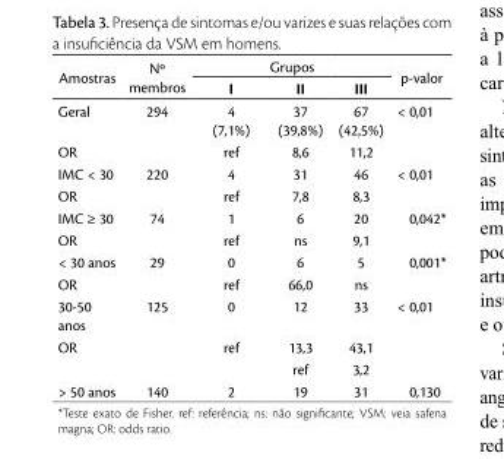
<table><thead><tr><td rowspan="2">Amostras</td><td rowspan="2">Nº membros</td><td colspan="3">Grupos</td><td rowspan="2">p-valor</td></tr><tr><td>I</td><td>II</td><td>III</td></tr></thead><tbody><tr><td>Geral</td><td>294</td><td>4 (7,1%)</td><td>37 (39,8%)</td><td>67 (42,5%)</td><td>&lt; 0,01</td></tr><tr><td>OR</td><td></td><td>ref</td><td>8,6</td><td>11,2</td><td></td></tr><tr><td>IMC &lt; 30</td><td>220</td><td>4</td><td>31</td><td>46</td><td>&lt; 0,01</td></tr><tr><td>OR</td><td></td><td>ref</td><td>7,8</td><td>8,3</td><td></td></tr><tr><td>IMC ≥ 30</td><td>74</td><td>1</td><td>6</td><td>20</td><td>0,042*</td></tr><tr><td>OR</td><td></td><td>ref</td><td>ns</td><td>9,1</td><td></td></tr><tr><td>&lt; 30 anos</td><td>29</td><td>0</td><td>6</td><td>5</td><td>0,001*</td></tr><tr><td>OR</td><td></td><td>ref</td><td>66,0</td><td>ns</td><td></td></tr><tr><td>30-50 anos</td><td>125</td><td>0</td><td>12</td><td>33</td><td>&lt; 0,01</td></tr><tr><td rowspan="2">OR</td><td></td><td>ref</td><td>13,3</td><td>43,1</td><td></td></tr><tr><td></td><td></td><td>ref</td><td>3,2</td><td></td></tr><tr><td>&gt; 50 anos</td><td>140</td><td>2</td><td>19</td><td>31</td><td>0,130</td></tr></tbody></table>